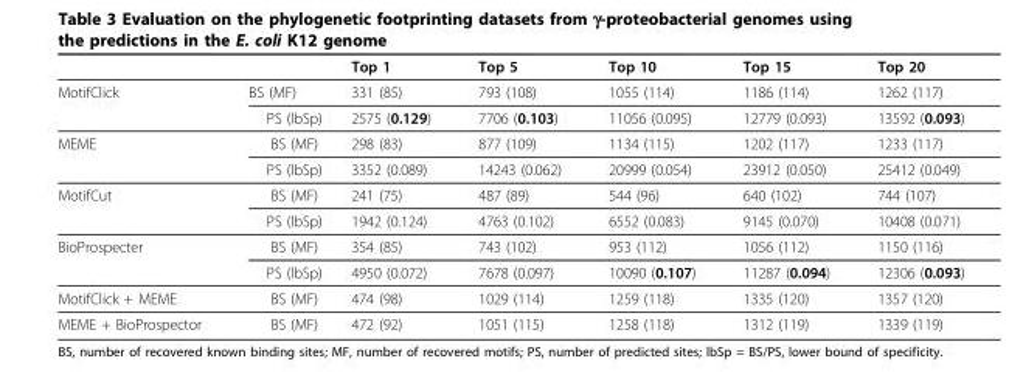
<table><thead><tr><td></td><td></td><td>Top 1</td><td>Top 5</td><td>Top 10</td><td>Top 15</td><td>Top 20</td></tr></thead><tbody><tr><td rowspan="2">MotifClick</td><td>BS (MF)</td><td>331 (85)</td><td>793 (108)</td><td>1055 (114)</td><td>1186 (114)</td><td>1262 (117)</td></tr><tr><td>PS (lbSp)</td><td>2575 (0.129)</td><td>7706 (0.103)</td><td>11056 (0.095)</td><td>12779 (0.093)</td><td>13592 (0.093)</td></tr><tr><td rowspan="2">MEME</td><td>BS (MF)</td><td>298 (83)</td><td>877 (109)</td><td>1134 (115)</td><td>1202 (117)</td><td>1233 (117)</td></tr><tr><td>PS (lbSp)</td><td>3352 (0.089)</td><td>14243 (0.062)</td><td>20999 (0.054)</td><td>23912 (0.050)</td><td>25412 (0.049)</td></tr><tr><td rowspan="2">MotifCut</td><td>BS (MF)</td><td>241 (75)</td><td>487 (89)</td><td>544 (96)</td><td>640 (102)</td><td>744 (107)</td></tr><tr><td>PS (lbSp)</td><td>1942 (0.124)</td><td>4763 (0.102)</td><td>6552 (0.083)</td><td>9145 (0.070)</td><td>10408 (0.071)</td></tr><tr><td rowspan="2">BioProspecter</td><td>BS (MF)</td><td>354 (85)</td><td>743 (102)</td><td>953 (112)</td><td>1056 (112)</td><td>1150 (116)</td></tr><tr><td>PS (lbSp)</td><td>4950 (0.072)</td><td>7678 (0.097)</td><td>10090 (0.107)</td><td>11287 (0.094)</td><td>12306 (0.093)</td></tr><tr><td>MotifClick + MEME</td><td>BS (MF)</td><td>474 (98)</td><td>1029 (114)</td><td>1259 (118)</td><td>1335 (120)</td><td>1357 (120)</td></tr><tr><td>MEME + BioProspector</td><td>BS (MF)</td><td>472 (92)</td><td>1051 (115)</td><td>1258 (118)</td><td>1312 (119)</td><td>1339 (119)</td></tr></tbody></table>